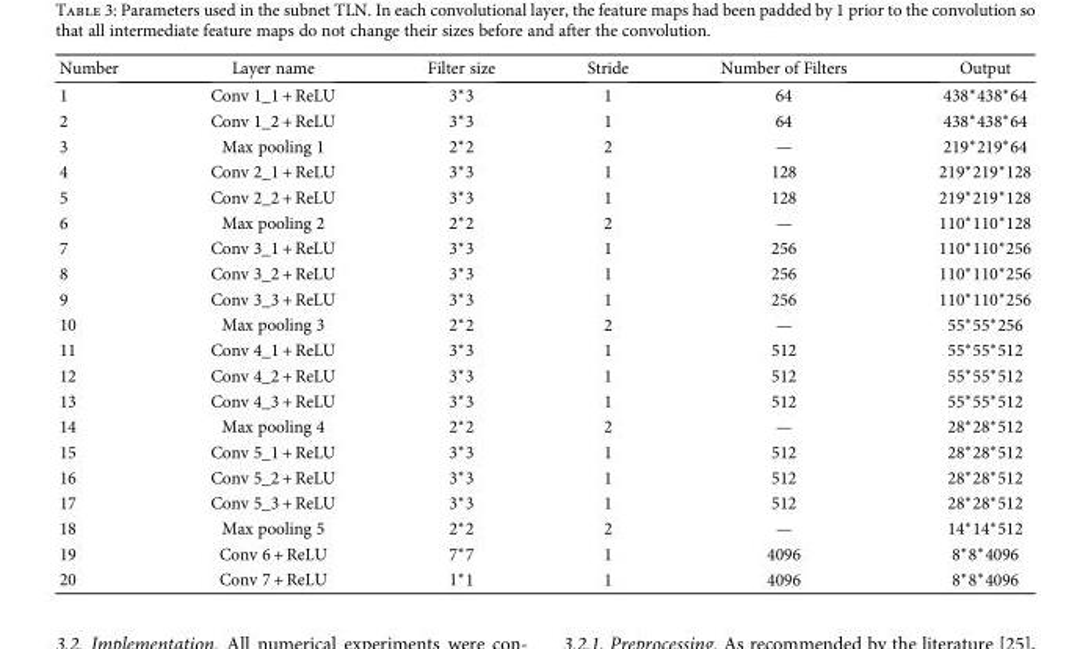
<table><thead><tr><td>Number</td><td>Layer name</td><td>Filter size</td><td>Stride</td><td>Number of Filters</td><td>Output</td></tr></thead><tbody><tr><td>1</td><td>Conv 1_1 + ReLU</td><td>3∗3</td><td>1</td><td>64</td><td>438∗438∗64</td></tr><tr><td>2</td><td>Conv 1_2 + ReLU</td><td>3∗3</td><td>1</td><td>64</td><td>438∗438∗64</td></tr><tr><td>3</td><td>Max pooling 1</td><td>2∗2</td><td>2</td><td>—</td><td>219∗219∗64</td></tr><tr><td>4</td><td>Conv 2_1 + ReLU</td><td>3∗3</td><td>1</td><td>128</td><td>219∗219∗128</td></tr><tr><td>5</td><td>Conv 2_2 + ReLU</td><td>3∗3</td><td>1</td><td>128</td><td>219∗219∗128</td></tr><tr><td>6</td><td>Max pooling 2</td><td>2∗2</td><td>2</td><td>—</td><td>110∗110∗128</td></tr><tr><td>7</td><td>Conv 3_1 + ReLU</td><td>3∗3</td><td>1</td><td>256</td><td>110∗110∗256</td></tr><tr><td>8</td><td>Conv 3_2 + ReLU</td><td>3∗3</td><td>1</td><td>256</td><td>110∗110∗256</td></tr><tr><td>9</td><td>Conv 3_3 + ReLU</td><td>3∗3</td><td>1</td><td>256</td><td>110∗110∗256</td></tr><tr><td>10</td><td>Max pooling 3</td><td>2∗2</td><td>2</td><td>—</td><td>55∗55∗256</td></tr><tr><td>11</td><td>Conv 4_1 + ReLU</td><td>3∗3</td><td>1</td><td>512</td><td>55∗55∗512</td></tr><tr><td>12</td><td>Conv 4_2 + ReLU</td><td>3∗3</td><td>1</td><td>512</td><td>55∗55∗512</td></tr><tr><td>13</td><td>Conv 4_3 + ReLU</td><td>3∗3</td><td>1</td><td>512</td><td>55∗55∗512</td></tr><tr><td>14</td><td>Max pooling 4</td><td>2∗2</td><td>2</td><td>—</td><td>28∗28∗512</td></tr><tr><td>15</td><td>Conv 5_1 + ReLU</td><td>3∗3</td><td>1</td><td>512</td><td>28∗28∗512</td></tr><tr><td>16</td><td>Conv 5_2 + ReLU</td><td>3∗3</td><td>1</td><td>512</td><td>28∗28∗512</td></tr><tr><td>17</td><td>Conv 5_3 + ReLU</td><td>3∗3</td><td>1</td><td>512</td><td>28∗28∗512</td></tr><tr><td>18</td><td>Max pooling 5</td><td>2∗2</td><td>2</td><td>—</td><td>14∗14∗512</td></tr><tr><td>19</td><td>Conv 6 + ReLU</td><td>7∗7</td><td>1</td><td>4096</td><td>8∗8∗4096</td></tr><tr><td>20</td><td>Conv 7 + ReLU</td><td>1∗1</td><td>1</td><td>4096</td><td>8∗8∗4096</td></tr></tbody></table>